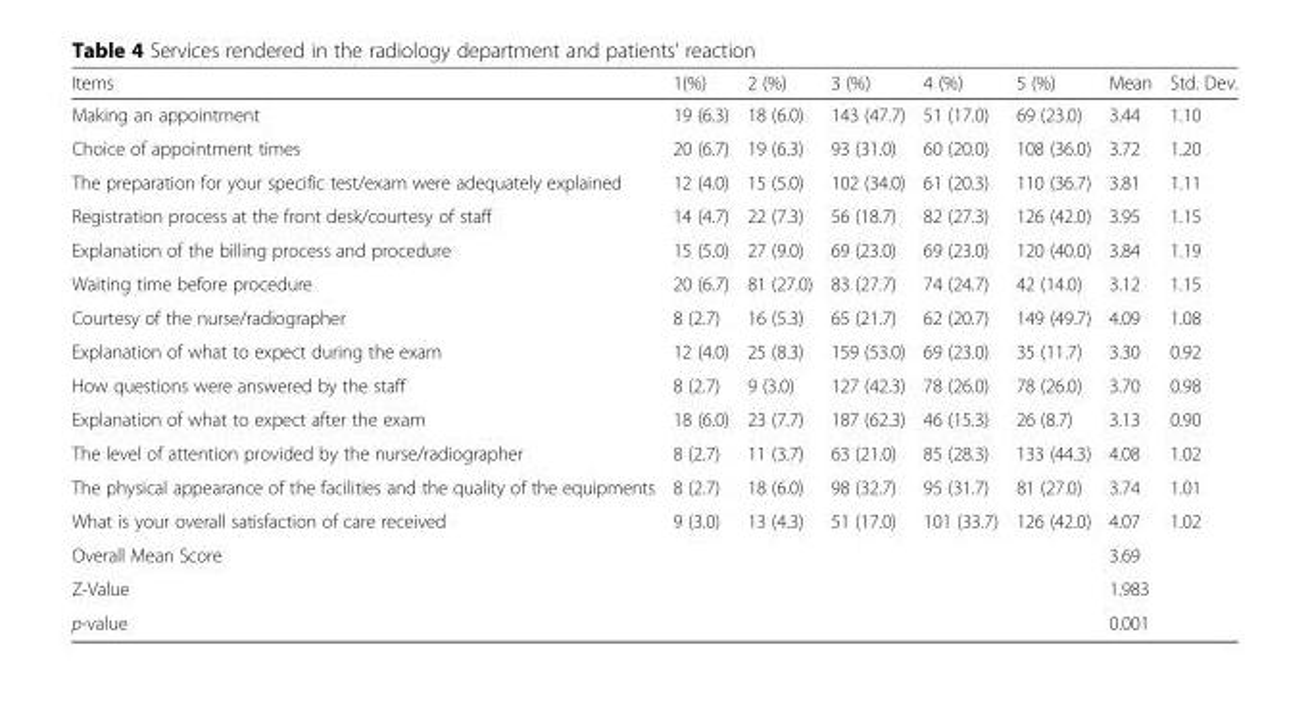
<table><thead><tr><td>Items</td><td>1(%)</td><td>2 (%)</td><td>3 (%)</td><td>4 (%)</td><td>5 (%)</td><td>Mean</td><td>Std. Dev.</td></tr></thead><tbody><tr><td>Making an appointment</td><td>19 (6.3)</td><td>18 (6.0)</td><td>143 (47.7)</td><td>51 (17.0)</td><td>69 (23.0)</td><td>3.44</td><td>1.10</td></tr><tr><td>Choice of appointment times</td><td>20 (6.7)</td><td>19 (6.3)</td><td>93 (31.0)</td><td>60 (20.0)</td><td>108 (36.0)</td><td>3.72</td><td>1.20</td></tr><tr><td>The preparation for your specific test/exam were adequately explained</td><td>12 (4.0)</td><td>15 (5.0)</td><td>102 (34.0)</td><td>61 (20.3)</td><td>110 (36.7)</td><td>3.81</td><td>1.11</td></tr><tr><td>Registration process at the front desk/courtesy of staff</td><td>14 (4.7)</td><td>22 (7.3)</td><td>56 (18.7)</td><td>82 (27.3)</td><td>126 (42.0)</td><td>3.95</td><td>1.15</td></tr><tr><td>Explanation of the billing process and procedure</td><td>15 (5.0)</td><td>27 (9.0)</td><td>69 (23.0)</td><td>69 (23.0)</td><td>120 (40.0)</td><td>3.84</td><td>1.19</td></tr><tr><td>Waiting time before procedure</td><td>20 (6.7)</td><td>81 (27.0)</td><td>83 (27.7)</td><td>74 (24.7)</td><td>42 (14.0)</td><td>3.12</td><td>1.15</td></tr><tr><td>Courtesy of the nurse/radiographer</td><td>8 (2.7)</td><td>16 (5.3)</td><td>65 (21.7)</td><td>62 (20.7)</td><td>149 (49.7)</td><td>4.09</td><td>1.08</td></tr><tr><td>Explanation of what to expect during the exam</td><td>12 (4.0)</td><td>25 (8.3)</td><td>159 (53.0)</td><td>69 (23.0)</td><td>35 (11.7)</td><td>3.30</td><td>0.92</td></tr><tr><td>How questions were answered by the staff</td><td>8 (2.7)</td><td>9 (3.0)</td><td>127 (42.3)</td><td>78 (26.0)</td><td>78 (26.0)</td><td>3.70</td><td>0.98</td></tr><tr><td>Explanation of what to expect after the exam</td><td>18 (6.0)</td><td>23 (7.7)</td><td>187 (62.3)</td><td>46 (15.3)</td><td>26 (8.7)</td><td>3.13</td><td>0.90</td></tr><tr><td>The level of attention provided by the nurse/radiographer</td><td>8 (2.7)</td><td>11 (3.7)</td><td>63 (21.0)</td><td>85 (28.3)</td><td>133 (44.3)</td><td>4.08</td><td>1.02</td></tr><tr><td>The physical appearance of the facilities and the quality of the equipments</td><td>8 (2.7)</td><td>18 (6.0)</td><td>98 (32.7)</td><td>95 (31.7)</td><td>81 (27.0)</td><td>3.74</td><td>1.01</td></tr><tr><td>What is your overall satisfaction of care received</td><td>9 (3.0)</td><td>13 (4.3)</td><td>51 (17.0)</td><td>101 (33.7)</td><td>126 (42.0)</td><td>4.07</td><td>1.02</td></tr><tr><td colspan="6">Overall Mean Score</td><td colspan="2">3.69</td></tr><tr><td colspan="6">Z-Value</td><td colspan="2">1.983</td></tr><tr><td colspan="6">p-value</td><td colspan="2">0.001</td></tr></tbody></table>